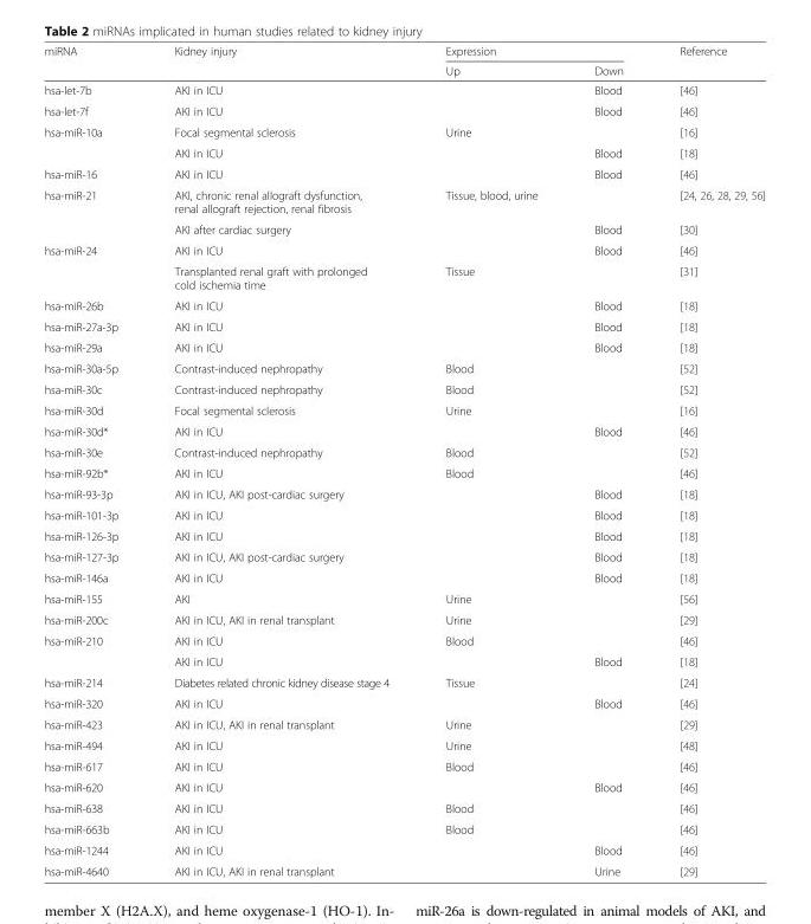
<table><thead><tr><td rowspan="2">miRNA</td><td rowspan="2">Kidney injury</td><td colspan="2">Expression</td><td rowspan="2">Reference</td></tr><tr><td>Up</td><td>Down</td></tr></thead><tbody><tr><td>hsa-let-7b</td><td>AKI in ICU</td><td></td><td>Blood</td><td>[46]</td></tr><tr><td>hsa-let-7f</td><td>AKI in ICU</td><td></td><td>Blood</td><td>[46]</td></tr><tr><td rowspan="2">hsa-miR-10a</td><td>Focal segmental sclerosis</td><td>Urine</td><td></td><td>[16]</td></tr><tr><td>AKI in ICU</td><td></td><td>Blood</td><td>[18]</td></tr><tr><td>hsa-miR-16</td><td>AKI in ICU</td><td></td><td>Blood</td><td>[46]</td></tr><tr><td rowspan="2">hsa-miR-21</td><td>AKI, chronic renal allograft dysfunction, renal allograft rejection, renal fibrosis</td><td>Tissue, blood, urine</td><td></td><td>[24, 26, 28, 29, 56]</td></tr><tr><td>AKI after cardiac surgery</td><td></td><td>Blood</td><td>[30]</td></tr><tr><td rowspan="2">hsa-miR-24</td><td>AKI in ICU</td><td></td><td>Blood</td><td>[46]</td></tr><tr><td>Transplanted renal graft with prolonged cold ischemia time</td><td>Tissue</td><td></td><td>[31]</td></tr><tr><td>hsa-miR-26b</td><td>AKI in ICU</td><td></td><td>Blood</td><td>[18]</td></tr><tr><td>hsa-miR-27a-3p</td><td>AKI in ICU</td><td></td><td>Blood</td><td>[18]</td></tr><tr><td>hsa-miR-29a</td><td>AKI in ICU</td><td></td><td>Blood</td><td>[18]</td></tr><tr><td>hsa-miR-30a-5p</td><td>Contrast-induced nephropathy</td><td>Blood</td><td></td><td>[52]</td></tr><tr><td>hsa-miR-30c</td><td>Contrast-induced nephropathy</td><td>Blood</td><td></td><td>[52]</td></tr><tr><td>hsa-miR-30d</td><td>Focal segmental sclerosis</td><td>Urine</td><td></td><td>[16]</td></tr><tr><td>hsa-miR-30d*</td><td>AKI in ICU</td><td></td><td>Blood</td><td>[46]</td></tr><tr><td>hsa-miR-30e</td><td>Contrast-induced nephropathy</td><td>Blood</td><td></td><td>[52]</td></tr><tr><td>hsa-miR-92b*</td><td>AKI in ICU</td><td>Blood</td><td></td><td>[46]</td></tr><tr><td>hsa-miR-93-3p</td><td>AKI in ICU, AKI post-cardiac surgery</td><td></td><td>Blood</td><td>[18]</td></tr><tr><td>hsa-miR-101-3p</td><td>AKI in ICU</td><td></td><td>Blood</td><td>[18]</td></tr><tr><td>hsa-miR-126-3p</td><td>AKI in ICU</td><td></td><td>Blood</td><td>[18]</td></tr><tr><td>hsa-miR-127-3p</td><td>AKI in ICU, AKI post-cardiac surgery</td><td></td><td>Blood</td><td>[18]</td></tr><tr><td>hsa-miR-146a</td><td>AKI in ICU</td><td></td><td>Blood</td><td>[18]</td></tr><tr><td>hsa-miR-155</td><td>AKI</td><td>Urine</td><td></td><td>[56]</td></tr><tr><td>hsa-miR-200c</td><td>AKI in ICU, AKI in renal transplant</td><td>Urine</td><td></td><td>[29]</td></tr><tr><td rowspan="2">hsa-miR-210</td><td>AKI in ICU</td><td>Blood</td><td></td><td>[46]</td></tr><tr><td>AKI in ICU</td><td></td><td>Blood</td><td>[18]</td></tr><tr><td>hsa-miR-214</td><td>Diabetes related chronic kidney disease stage 4</td><td>Tissue</td><td></td><td>[24]</td></tr><tr><td>hsa-miR-320</td><td>AKI in ICU</td><td></td><td>Blood</td><td>[46]</td></tr><tr><td>hsa-miR-423</td><td>AKI in ICU, AKI in renal transplant</td><td>Urine</td><td></td><td>[29]</td></tr><tr><td>hsa-miR-494</td><td>AKI in ICU</td><td>Urine</td><td></td><td>[48]</td></tr><tr><td>hsa-miR-617</td><td>AKI in ICU</td><td>Blood</td><td></td><td>[46]</td></tr><tr><td>hsa-miR-620</td><td>AKI in ICU</td><td></td><td>Blood</td><td>[46]</td></tr><tr><td>hsa-miR-638</td><td>AKI in ICU</td><td>Blood</td><td></td><td>[46]</td></tr><tr><td>hsa-miR-663b</td><td>AKI in ICU</td><td>Blood</td><td></td><td>[46]</td></tr><tr><td>hsa-miR-1244</td><td>AKI in ICU</td><td></td><td>Blood</td><td>[46]</td></tr><tr><td>hsa-miR-4640</td><td>AKI in ICU, AKI in renal transplant</td><td></td><td>Urine</td><td>[29]</td></tr></tbody></table>